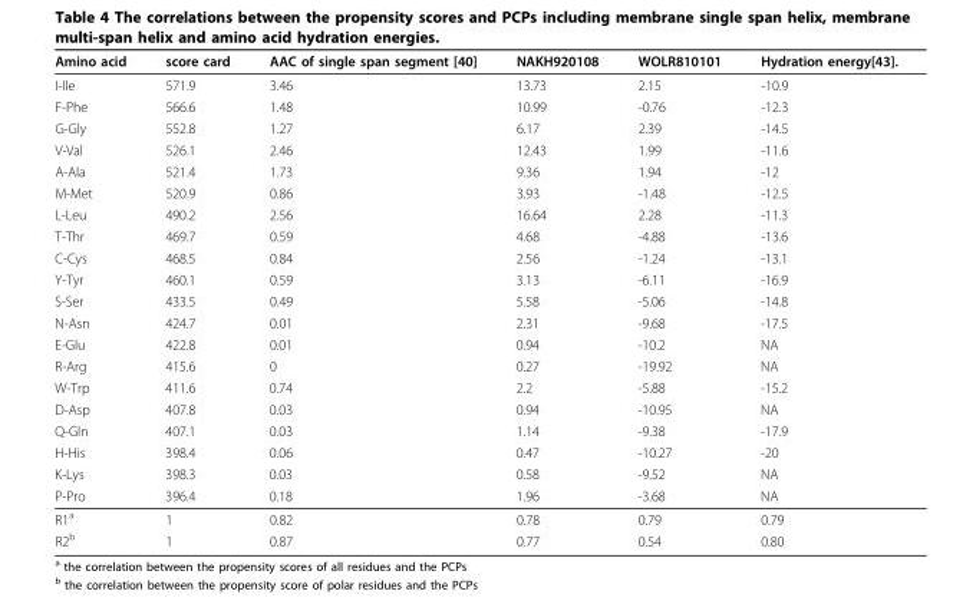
<table><thead><tr><td>Amino acid</td><td>score card</td><td>AAC of single span segment [40]</td><td>NAKH920108</td><td>WOLR810101</td><td>Hydration energy[43].</td></tr></thead><tbody><tr><td>I-Ile</td><td>571.9</td><td>3.46</td><td>13.73</td><td>2.15</td><td>-10.9</td></tr><tr><td>F-Phe</td><td>566.6</td><td>1.48</td><td>10.99</td><td>-0.76</td><td>-12.3</td></tr><tr><td>G-Gly</td><td>552.8</td><td>1.27</td><td>6.17</td><td>2.39</td><td>-14.5</td></tr><tr><td>V-Val</td><td>526.1</td><td>2.46</td><td>12.43</td><td>1.99</td><td>-11.6</td></tr><tr><td>A-Ala</td><td>521.4</td><td>1.73</td><td>9.36</td><td>1.94</td><td>-12</td></tr><tr><td>M-Met</td><td>520.9</td><td>0.86</td><td>3.93</td><td>-1.48</td><td>-12.5</td></tr><tr><td>L-Leu</td><td>490.2</td><td>2.56</td><td>16.64</td><td>2.28</td><td>-11.3</td></tr><tr><td>T-Thr</td><td>469.7</td><td>0.59</td><td>4.68</td><td>-4.88</td><td>-13.6</td></tr><tr><td>C-Cys</td><td>468.5</td><td>0.84</td><td>2.56</td><td>-1.24</td><td>-13.1</td></tr><tr><td>Y-Tyr</td><td>460.1</td><td>0.59</td><td>3.13</td><td>-6.11</td><td>-16.9</td></tr><tr><td>S-Ser</td><td>433.5</td><td>0.49</td><td>5.58</td><td>-5.06</td><td>-14.8</td></tr><tr><td>N-Asn</td><td>424.7</td><td>0.01</td><td>2.31</td><td>-9.68</td><td>-17.5</td></tr><tr><td>E-Glu</td><td>422.8</td><td>0.01</td><td>0.94</td><td>-10.2</td><td>NA</td></tr><tr><td>R-Arg</td><td>415.6</td><td>0</td><td>0.27</td><td>-19.92</td><td>NA</td></tr><tr><td>W-Trp</td><td>411.6</td><td>0.74</td><td>2.2</td><td>-5.88</td><td>-15.2</td></tr><tr><td>D-Asp</td><td>407.8</td><td>0.03</td><td>0.94</td><td>-10.95</td><td>NA</td></tr><tr><td>Q-Gln</td><td>407.1</td><td>0.03</td><td>1.14</td><td>-9.38</td><td>-17.9</td></tr><tr><td>H-His</td><td>398.4</td><td>0.06</td><td>0.47</td><td>-10.27</td><td>-20</td></tr><tr><td>K-Lys</td><td>398.3</td><td>0.03</td><td>0.58</td><td>-9.52</td><td>NA</td></tr><tr><td>P-Pro</td><td>396.4</td><td>0.18</td><td>1.96</td><td>-3.68</td><td>NA</td></tr><tr><td>R1<sup>a</sup></td><td>1</td><td>0.82</td><td>0.78</td><td>0.79</td><td>0.79</td></tr><tr><td>R2<sup>b</sup></td><td>1</td><td>0.87</td><td>0.77</td><td>0.54</td><td>0.80</td></tr></tbody></table>